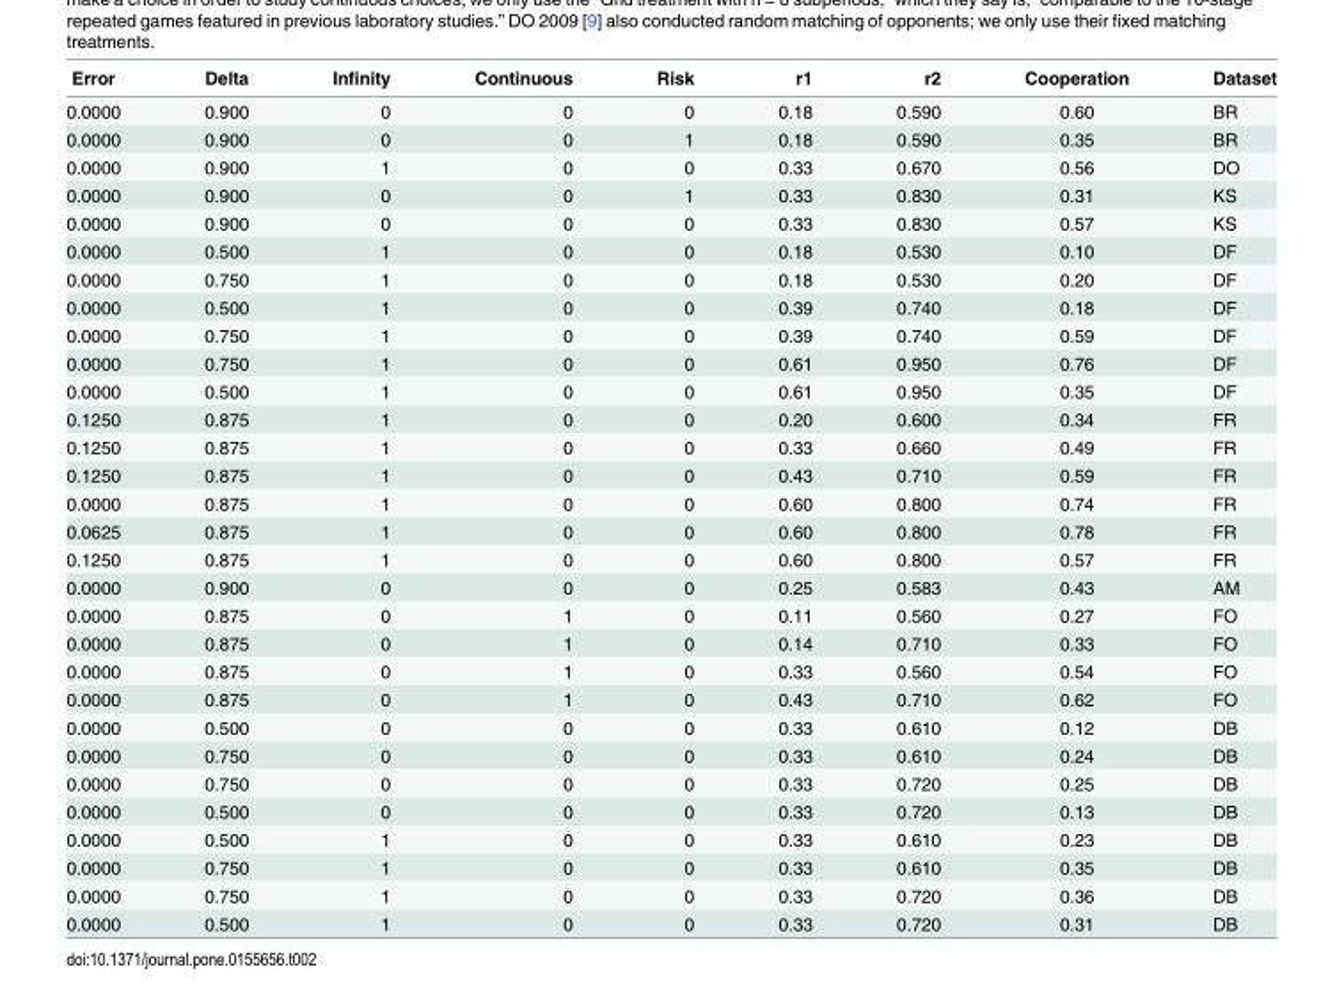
<table><thead><tr><td>Error</td><td>Delta</td><td>Infinity</td><td>Continuous</td><td>Risk</td><td>r1</td><td>r2</td><td>Cooperation</td><td>Dataset</td></tr></thead><tbody><tr><td>0.0000</td><td>0.900</td><td>0</td><td>0</td><td>0</td><td>0.18</td><td>0.590</td><td>0.60</td><td>BR</td></tr><tr><td>0.0000</td><td>0.900</td><td>0</td><td>0</td><td>1</td><td>0.18</td><td>0.590</td><td>0.35</td><td>BR</td></tr><tr><td>0.0000</td><td>0.900</td><td>1</td><td>0</td><td>0</td><td>0.33</td><td>0.670</td><td>0.56</td><td>DO</td></tr><tr><td>0.0000</td><td>0.900</td><td>0</td><td>0</td><td>1</td><td>0.33</td><td>0.830</td><td>0.31</td><td>KS</td></tr><tr><td>0.0000</td><td>0.900</td><td>0</td><td>0</td><td>0</td><td>0.33</td><td>0.830</td><td>0.57</td><td>KS</td></tr><tr><td>0.0000</td><td>0.500</td><td>1</td><td>0</td><td>0</td><td>0.18</td><td>0.530</td><td>0.10</td><td>DF</td></tr><tr><td>0.0000</td><td>0.750</td><td>1</td><td>0</td><td>0</td><td>0.18</td><td>0.530</td><td>0.20</td><td>DF</td></tr><tr><td>0.0000</td><td>0.500</td><td>1</td><td>0</td><td>0</td><td>0.39</td><td>0.740</td><td>0.18</td><td>DF</td></tr><tr><td>0.0000</td><td>0.750</td><td>1</td><td>0</td><td>0</td><td>0.39</td><td>0.740</td><td>0.59</td><td>DF</td></tr><tr><td>0.0000</td><td>0.750</td><td>1</td><td>0</td><td>0</td><td>0.61</td><td>0.950</td><td>0.76</td><td>DF</td></tr><tr><td>0.0000</td><td>0.500</td><td>1</td><td>0</td><td>0</td><td>0.61</td><td>0.950</td><td>0.35</td><td>DF</td></tr><tr><td>0.1250</td><td>0.875</td><td>1</td><td>0</td><td>0</td><td>0.20</td><td>0.600</td><td>0.34</td><td>FR</td></tr><tr><td>0.1250</td><td>0.875</td><td>1</td><td>0</td><td>0</td><td>0.33</td><td>0.660</td><td>0.49</td><td>FR</td></tr><tr><td>0.1250</td><td>0.875</td><td>1</td><td>0</td><td>0</td><td>0.43</td><td>0.710</td><td>0.59</td><td>FR</td></tr><tr><td>0.0000</td><td>0.875</td><td>1</td><td>0</td><td>0</td><td>0.60</td><td>0.800</td><td>0.74</td><td>FR</td></tr><tr><td>0.0625</td><td>0.875</td><td>1</td><td>0</td><td>0</td><td>0.60</td><td>0.800</td><td>0.78</td><td>FR</td></tr><tr><td>0.1250</td><td>0.875</td><td>1</td><td>0</td><td>0</td><td>0.60</td><td>0.800</td><td>0.57</td><td>FR</td></tr><tr><td>0.0000</td><td>0.900</td><td>0</td><td>0</td><td>0</td><td>0.25</td><td>0.583</td><td>0.43</td><td>AM</td></tr><tr><td>0.0000</td><td>0.875</td><td>0</td><td>1</td><td>0</td><td>0.11</td><td>0.560</td><td>0.27</td><td>FO</td></tr><tr><td>0.0000</td><td>0.875</td><td>0</td><td>1</td><td>0</td><td>0.14</td><td>0.710</td><td>0.33</td><td>FO</td></tr><tr><td>0.0000</td><td>0.875</td><td>0</td><td>1</td><td>0</td><td>0.33</td><td>0.560</td><td>0.54</td><td>FO</td></tr><tr><td>0.0000</td><td>0.875</td><td>0</td><td>1</td><td>0</td><td>0.43</td><td>0.710</td><td>0.62</td><td>FO</td></tr><tr><td>0.0000</td><td>0.500</td><td>0</td><td>0</td><td>0</td><td>0.33</td><td>0.610</td><td>0.12</td><td>DB</td></tr><tr><td>0.0000</td><td>0.750</td><td>0</td><td>0</td><td>0</td><td>0.33</td><td>0.610</td><td>0.24</td><td>DB</td></tr><tr><td>0.0000</td><td>0.750</td><td>0</td><td>0</td><td>0</td><td>0.33</td><td>0.720</td><td>0.25</td><td>DB</td></tr><tr><td>0.0000</td><td>0.500</td><td>0</td><td>0</td><td>0</td><td>0.33</td><td>0.720</td><td>0.13</td><td>DB</td></tr><tr><td>0.0000</td><td>0.500</td><td>1</td><td>0</td><td>0</td><td>0.33</td><td>0.610</td><td>0.23</td><td>DB</td></tr><tr><td>0.0000</td><td>0.750</td><td>1</td><td>0</td><td>0</td><td>0.33</td><td>0.610</td><td>0.35</td><td>DB</td></tr><tr><td>0.0000</td><td>0.750</td><td>1</td><td>0</td><td>0</td><td>0.33</td><td>0.720</td><td>0.36</td><td>DB</td></tr><tr><td>0.0000</td><td>0.500</td><td>1</td><td>0</td><td>0</td><td>0.33</td><td>0.720</td><td>0.31</td><td>DB</td></tr></tbody></table>